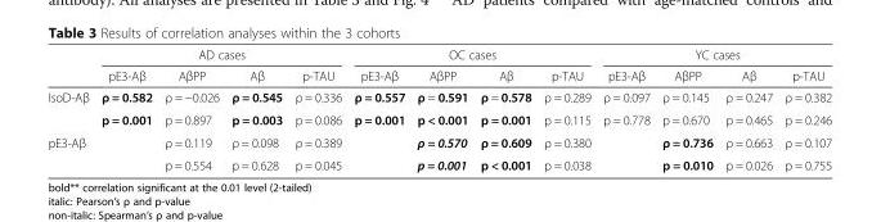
<table><thead><tr><td rowspan="2"></td><td colspan="4">AD cases</td><td colspan="4">OC cases</td><td colspan="4">YC cases</td></tr><tr><td>pE3-Aβ</td><td>AβPP</td><td>Aβ</td><td>p-TAU</td><td>pE3-Aβ</td><td>AβPP</td><td>Aβ</td><td>p-TAU</td><td>pE3-Aβ</td><td>AβPP</td><td>Aβ</td><td>p-TAU</td></tr></thead><tbody><tr><td rowspan="2">IsoD-Aβ</td><td>ρ = 0.582</td><td>ρ = −0.026</td><td>ρ = 0.545</td><td>ρ = 0.336</td><td>ρ = 0.557</td><td>ρ = 0.591</td><td>ρ = 0.578</td><td>ρ = 0.289</td><td>ρ = 0.097</td><td>ρ = 0.145</td><td>ρ = 0.247</td><td>ρ = 0.382</td></tr><tr><td>p = 0.001</td><td>p = 0.897</td><td>p = 0.003</td><td>p = 0.086</td><td>p = 0.001</td><td>p &lt; 0.001</td><td>p = 0.001</td><td>p = 0.115</td><td>p = 0.778</td><td>p = 0.670</td><td>p = 0.465</td><td>p = 0.246</td></tr><tr><td rowspan="2">pE3-Aβ</td><td></td><td>ρ = 0.119</td><td>ρ = 0.098</td><td>ρ = 0.389</td><td></td><td>ρ = 0.570</td><td>ρ = 0.609</td><td>ρ = 0.380</td><td></td><td>ρ = 0.736</td><td>ρ = 0.663</td><td>ρ = 0.107</td></tr><tr><td></td><td>p = 0.554</td><td>p = 0.628</td><td>p = 0.045</td><td></td><td>p = 0.001</td><td>p &lt; 0.001</td><td>p = 0.038</td><td></td><td>p = 0.010</td><td>p = 0.026</td><td>p = 0.755</td></tr></tbody></table>